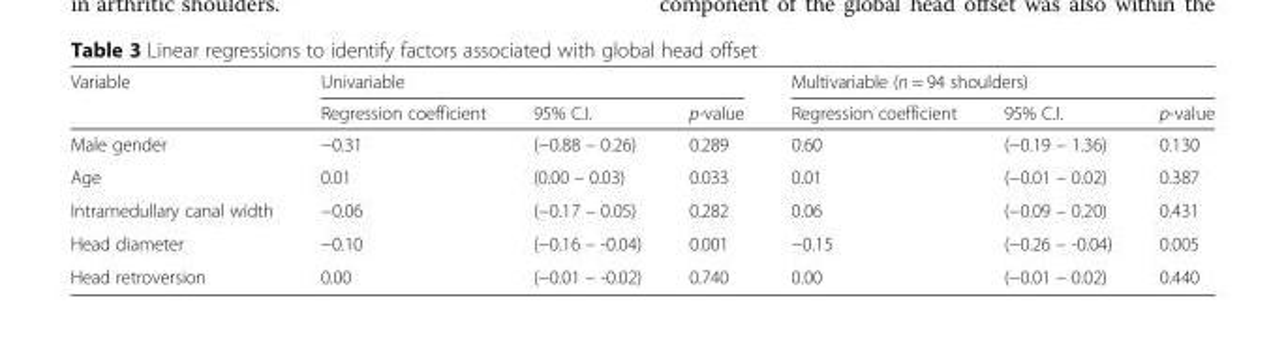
<table><thead><tr><td rowspan="2">Variable</td><td colspan="3">Univariable</td><td colspan="3">Multivariable (n = 94 shoulders)</td></tr><tr><td>Regression coefficient</td><td>95% C.I.</td><td>p-value</td><td>Regression coefficient</td><td>95% C.I.</td><td>p-value</td></tr></thead><tbody><tr><td>Male gender</td><td>−0.31</td><td>(−0.88 – 0.26)</td><td>0.289</td><td>0.60</td><td>(−0.19 – 1.36)</td><td>0.130</td></tr><tr><td>Age</td><td>0.01</td><td>(0.00 – 0.03)</td><td>0.033</td><td>0.01</td><td>(−0.01 – 0.02)</td><td>0.387</td></tr><tr><td>Intramedullary canal width</td><td>−0.06</td><td>(−0.17 – 0.05)</td><td>0.282</td><td>0.06</td><td>(−0.09 – 0.20)</td><td>0.431</td></tr><tr><td>Head diameter</td><td>−0.10</td><td>(−0.16 – -0.04)</td><td>0.001</td><td>−0.15</td><td>(−0.26 – -0.04)</td><td>0.005</td></tr><tr><td>Head retroversion</td><td>0.00</td><td>(−0.01 – -0.02)</td><td>0.740</td><td>0.00</td><td>(−0.01 – 0.02)</td><td>0.440</td></tr></tbody></table>